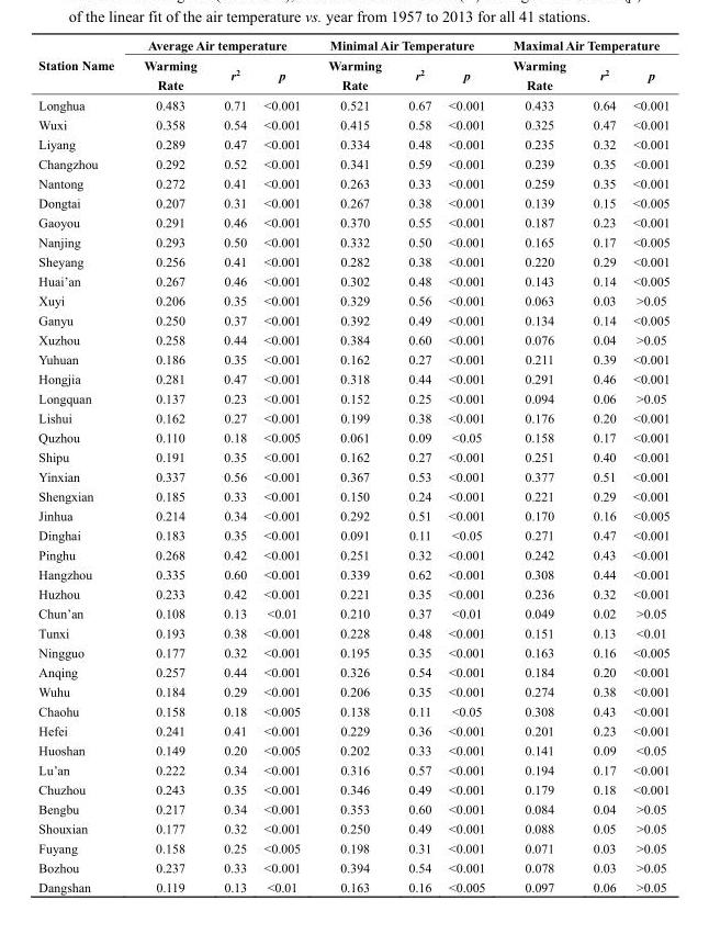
<table><thead><tr><td rowspan="2">Station Name</td><td colspan="3">Average Air temperature</td><td colspan="3">Minimal Air Temperature</td><td colspan="3">Maximal Air Temperature</td></tr><tr><td>Warming Rate</td><td>r<sup>2</sup></td><td>p</td><td>Warming Rate</td><td>r<sup>2</sup></td><td>p</td><td>Warming Rate</td><td>r<sup>2</sup></td><td>p</td></tr></thead><tbody><tr><td>Longhua</td><td>0.483</td><td>0.71</td><td>&lt;0.001</td><td>0.521</td><td>0.67</td><td>&lt;0.001</td><td>0.433</td><td>0.64</td><td>&lt;0.001</td></tr><tr><td>Wuxi</td><td>0.358</td><td>0.54</td><td>&lt;0.001</td><td>0.415</td><td>0.58</td><td>&lt;0.001</td><td>0.325</td><td>0.47</td><td>&lt;0.001</td></tr><tr><td>Liyang</td><td>0.289</td><td>0.47</td><td>&lt;0.001</td><td>0.334</td><td>0.48</td><td>&lt;0.001</td><td>0.235</td><td>0.32</td><td>&lt;0.001</td></tr><tr><td>Changzhou</td><td>0.292</td><td>0.52</td><td>&lt;0.001</td><td>0.341</td><td>0.59</td><td>&lt;0.001</td><td>0.239</td><td>0.35</td><td>&lt;0.001</td></tr><tr><td>Nantong</td><td>0.272</td><td>0.41</td><td>&lt;0.001</td><td>0.263</td><td>0.33</td><td>&lt;0.001</td><td>0.259</td><td>0.35</td><td>&lt;0.001</td></tr><tr><td>Dongtai</td><td>0.207</td><td>0.31</td><td>&lt;0.001</td><td>0.267</td><td>0.38</td><td>&lt;0.001</td><td>0.139</td><td>0.15</td><td>&lt;0.005</td></tr><tr><td>Gaoyou</td><td>0.291</td><td>0.46</td><td>&lt;0.001</td><td>0.370</td><td>0.55</td><td>&lt;0.001</td><td>0.187</td><td>0.23</td><td>&lt;0.001</td></tr><tr><td>Nanjing</td><td>0.293</td><td>0.50</td><td>&lt;0.001</td><td>0.332</td><td>0.50</td><td>&lt;0.001</td><td>0.165</td><td>0.17</td><td>&lt;0.005</td></tr><tr><td>Sheyang</td><td>0.256</td><td>0.41</td><td>&lt;0.001</td><td>0.282</td><td>0.38</td><td>&lt;0.001</td><td>0.220</td><td>0.29</td><td>&lt;0.001</td></tr><tr><td>Huai’an</td><td>0.267</td><td>0.46</td><td>&lt;0.001</td><td>0.302</td><td>0.48</td><td>&lt;0.001</td><td>0.143</td><td>0.14</td><td>&lt;0.005</td></tr><tr><td>Xuyi</td><td>0.206</td><td>0.35</td><td>&lt;0.001</td><td>0.329</td><td>0.56</td><td>&lt;0.001</td><td>0.063</td><td>0.03</td><td>&gt;0.05</td></tr><tr><td>Ganyu</td><td>0.250</td><td>0.37</td><td>&lt;0.001</td><td>0.392</td><td>0.49</td><td>&lt;0.001</td><td>0.134</td><td>0.14</td><td>&lt;0.005</td></tr><tr><td>Xuzhou</td><td>0.258</td><td>0.44</td><td>&lt;0.001</td><td>0.384</td><td>0.60</td><td>&lt;0.001</td><td>0.076</td><td>0.04</td><td>&gt;0.05</td></tr><tr><td>Yuhuan</td><td>0.186</td><td>0.35</td><td>&lt;0.001</td><td>0.162</td><td>0.27</td><td>&lt;0.001</td><td>0.211</td><td>0.39</td><td>&lt;0.001</td></tr><tr><td>Hongjia</td><td>0.281</td><td>0.47</td><td>&lt;0.001</td><td>0.318</td><td>0.44</td><td>&lt;0.001</td><td>0.291</td><td>0.46</td><td>&lt;0.001</td></tr><tr><td>Longquan</td><td>0.137</td><td>0.23</td><td>&lt;0.001</td><td>0.152</td><td>0.25</td><td>&lt;0.001</td><td>0.094</td><td>0.06</td><td>&gt;0.05</td></tr><tr><td>Lishui</td><td>0.162</td><td>0.27</td><td>&lt;0.001</td><td>0.199</td><td>0.38</td><td>&lt;0.001</td><td>0.176</td><td>0.20</td><td>&lt;0.001</td></tr><tr><td>Quzhou</td><td>0.110</td><td>0.18</td><td>&lt;0.005</td><td>0.061</td><td>0.09</td><td>&lt;0.05</td><td>0.158</td><td>0.17</td><td>&lt;0.001</td></tr><tr><td>Shipu</td><td>0.191</td><td>0.35</td><td>&lt;0.001</td><td>0.162</td><td>0.27</td><td>&lt;0.001</td><td>0.251</td><td>0.40</td><td>&lt;0.001</td></tr><tr><td>Yinxian</td><td>0.337</td><td>0.56</td><td>&lt;0.001</td><td>0.367</td><td>0.53</td><td>&lt;0.001</td><td>0.377</td><td>0.51</td><td>&lt;0.001</td></tr><tr><td>Shengxian</td><td>0.185</td><td>0.33</td><td>&lt;0.001</td><td>0.150</td><td>0.24</td><td>&lt;0.001</td><td>0.221</td><td>0.29</td><td>&lt;0.001</td></tr><tr><td>Jinhua</td><td>0.214</td><td>0.34</td><td>&lt;0.001</td><td>0.292</td><td>0.51</td><td>&lt;0.001</td><td>0.170</td><td>0.16</td><td>&lt;0.005</td></tr><tr><td>Dinghai</td><td>0.183</td><td>0.35</td><td>&lt;0.001</td><td>0.091</td><td>0.11</td><td>&lt;0.05</td><td>0.271</td><td>0.47</td><td>&lt;0.001</td></tr><tr><td>Pinghu</td><td>0.268</td><td>0.42</td><td>&lt;0.001</td><td>0.251</td><td>0.32</td><td>&lt;0.001</td><td>0.242</td><td>0.43</td><td>&lt;0.001</td></tr><tr><td>Hangzhou</td><td>0.335</td><td>0.60</td><td>&lt;0.001</td><td>0.339</td><td>0.62</td><td>&lt;0.001</td><td>0.308</td><td>0.44</td><td>&lt;0.001</td></tr><tr><td>Huzhou</td><td>0.233</td><td>0.42</td><td>&lt;0.001</td><td>0.221</td><td>0.35</td><td>&lt;0.001</td><td>0.236</td><td>0.32</td><td>&lt;0.001</td></tr><tr><td>Chun’an</td><td>0.108</td><td>0.13</td><td>&lt;0.01</td><td>0.210</td><td>0.37</td><td>&lt;0.01</td><td>0.049</td><td>0.02</td><td>&gt;0.05</td></tr><tr><td>Tunxi</td><td>0.193</td><td>0.38</td><td>&lt;0.001</td><td>0.228</td><td>0.48</td><td>&lt;0.001</td><td>0.151</td><td>0.13</td><td>&lt;0.01</td></tr><tr><td>Ningguo</td><td>0.177</td><td>0.32</td><td>&lt;0.001</td><td>0.195</td><td>0.35</td><td>&lt;0.001</td><td>0.163</td><td>0.16</td><td>&lt;0.005</td></tr><tr><td>Anqing</td><td>0.257</td><td>0.44</td><td>&lt;0.001</td><td>0.326</td><td>0.54</td><td>&lt;0.001</td><td>0.184</td><td>0.20</td><td>&lt;0.001</td></tr><tr><td>Wuhu</td><td>0.184</td><td>0.29</td><td>&lt;0.001</td><td>0.206</td><td>0.35</td><td>&lt;0.001</td><td>0.274</td><td>0.38</td><td>&lt;0.001</td></tr><tr><td>Chaohu</td><td>0.158</td><td>0.18</td><td>&lt;0.005</td><td>0.138</td><td>0.11</td><td>&lt;0.05</td><td>0.308</td><td>0.43</td><td>&lt;0.001</td></tr><tr><td>Hefei</td><td>0.241</td><td>0.41</td><td>&lt;0.001</td><td>0.229</td><td>0.36</td><td>&lt;0.001</td><td>0.201</td><td>0.23</td><td>&lt;0.001</td></tr><tr><td>Huoshan</td><td>0.149</td><td>0.20</td><td>&lt;0.005</td><td>0.202</td><td>0.33</td><td>&lt;0.001</td><td>0.141</td><td>0.09</td><td>&lt;0.05</td></tr><tr><td>Lu’an</td><td>0.222</td><td>0.34</td><td>&lt;0.001</td><td>0.316</td><td>0.57</td><td>&lt;0.001</td><td>0.194</td><td>0.17</td><td>&lt;0.001</td></tr><tr><td>Chuzhou</td><td>0.243</td><td>0.35</td><td>&lt;0.001</td><td>0.346</td><td>0.49</td><td>&lt;0.001</td><td>0.179</td><td>0.18</td><td>&lt;0.001</td></tr><tr><td>Bengbu</td><td>0.217</td><td>0.34</td><td>&lt;0.001</td><td>0.353</td><td>0.60</td><td>&lt;0.001</td><td>0.084</td><td>0.04</td><td>&gt;0.05</td></tr><tr><td>Shouxian</td><td>0.177</td><td>0.32</td><td>&lt;0.001</td><td>0.250</td><td>0.49</td><td>&lt;0.001</td><td>0.088</td><td>0.05</td><td>&gt;0.05</td></tr><tr><td>Fuyang</td><td>0.158</td><td>0.25</td><td>&lt;0.005</td><td>0.198</td><td>0.31</td><td>&lt;0.001</td><td>0.071</td><td>0.03</td><td>&gt;0.05</td></tr><tr><td>Bozhou</td><td>0.237</td><td>0.33</td><td>&lt;0.001</td><td>0.394</td><td>0.54</td><td>&lt;0.001</td><td>0.078</td><td>0.03</td><td>&gt;0.05</td></tr><tr><td>Dangshan</td><td>0.119</td><td>0.13</td><td>&lt;0.01</td><td>0.163</td><td>0.16</td><td>&lt;0.005</td><td>0.097</td><td>0.06</td><td>&gt;0.05</td></tr></tbody></table>